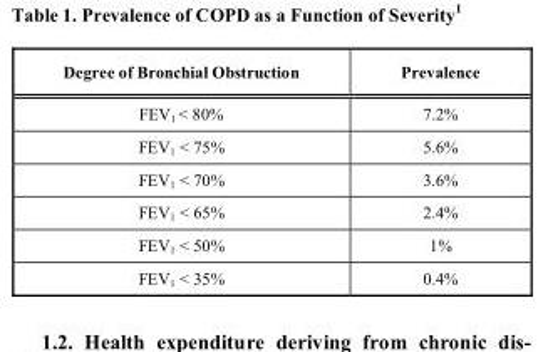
<table><thead><tr><td>Degree of Bronchial Obstruction</td><td>Prevalence</td></tr></thead><tbody><tr><td>FEV<sub>1</sub> &lt; 80%</td><td>7.2%</td></tr><tr><td>FEV<sub>1</sub> &lt; 75%</td><td>5.6%</td></tr><tr><td>FEV<sub>1</sub> &lt; 70%</td><td>3.6%</td></tr><tr><td>FEV<sub>1</sub> &lt; 65%</td><td>2.4%</td></tr><tr><td>FEV<sub>1</sub> &lt; 50%</td><td>1%</td></tr><tr><td>FEV<sub>1</sub> &lt; 35%</td><td>0.4%</td></tr></tbody></table>